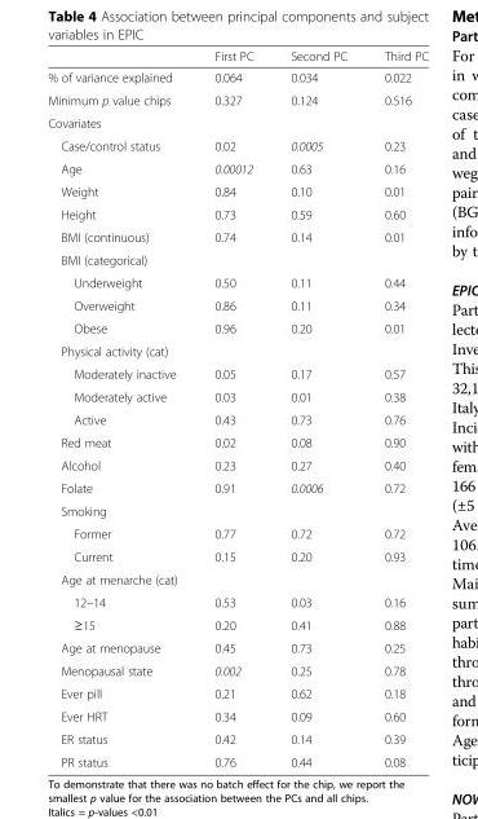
<table><thead><tr><td></td><td>First PC</td><td>Second PC</td><td>Third PC</td></tr></thead><tbody><tr><td>% of variance explained</td><td>0.064</td><td>0.034</td><td>0.022</td></tr><tr><td>Minimum p value chips</td><td>0.327</td><td>0.124</td><td>0.516</td></tr><tr><td colspan="4">Covariates</td></tr><tr><td>Case/control status</td><td>0.02</td><td>0.0005</td><td>0.23</td></tr><tr><td>Age</td><td>0.00012</td><td>0.63</td><td>0.16</td></tr><tr><td>Weight</td><td>0.84</td><td>0.10</td><td>0.01</td></tr><tr><td>Height</td><td>0.73</td><td>0.59</td><td>0.60</td></tr><tr><td>BMI (continuous)</td><td>0.74</td><td>0.14</td><td>0.01</td></tr><tr><td colspan="4">BMI (categorical)</td></tr><tr><td>Underweight</td><td>0.50</td><td>0.11</td><td>0.44</td></tr><tr><td>Overweight</td><td>0.86</td><td>0.11</td><td>0.34</td></tr><tr><td>Obese</td><td>0.96</td><td>0.20</td><td>0.01</td></tr><tr><td colspan="4">Physical activity (cat)</td></tr><tr><td>Moderately inactive</td><td>0.05</td><td>0.17</td><td>0.57</td></tr><tr><td>Moderately active</td><td>0.03</td><td>0.01</td><td>0.38</td></tr><tr><td>Active</td><td>0.43</td><td>0.73</td><td>0.76</td></tr><tr><td>Red meat</td><td>0.02</td><td>0.08</td><td>0.90</td></tr><tr><td>Alcohol</td><td>0.23</td><td>0.27</td><td>0.40</td></tr><tr><td>Folate</td><td>0.91</td><td>0.0006</td><td>0.72</td></tr><tr><td colspan="4">Smoking</td></tr><tr><td>Former</td><td>0.77</td><td>0.72</td><td>0.72</td></tr><tr><td>Current</td><td>0.15</td><td>0.20</td><td>0.93</td></tr><tr><td colspan="4">Age at menarche (cat)</td></tr><tr><td>12–14</td><td>0.53</td><td>0.03</td><td>0.16</td></tr><tr><td>≥15</td><td>0.20</td><td>0.41</td><td>0.88</td></tr><tr><td>Age at menopause</td><td>0.45</td><td>0.73</td><td>0.25</td></tr><tr><td>Menopausal state</td><td>0.002</td><td>0.25</td><td>0.78</td></tr><tr><td>Ever pill</td><td>0.21</td><td>0.62</td><td>0.18</td></tr><tr><td>Ever HRT</td><td>0.34</td><td>0.09</td><td>0.60</td></tr><tr><td>ER status</td><td>0.42</td><td>0.14</td><td>0.39</td></tr><tr><td>PR status</td><td>0.76</td><td>0.44</td><td>0.08</td></tr></tbody></table>